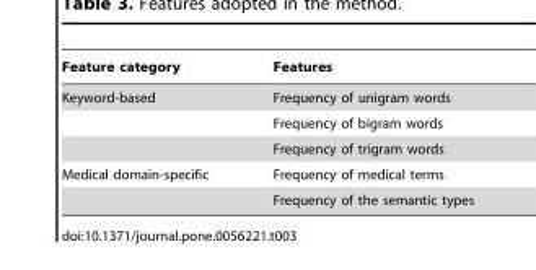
<table><thead><tr><td>Feature category</td><td>Features</td></tr></thead><tbody><tr><td rowspan="3">Keyword-based</td><td>Frequency of unigram words</td></tr><tr><td>Frequency of bigram words</td></tr><tr><td>Frequency of trigram words</td></tr><tr><td rowspan="2">Medical domain-specific</td><td>Frequency of medical terms</td></tr><tr><td>Frequency of the semantic types</td></tr></tbody></table>